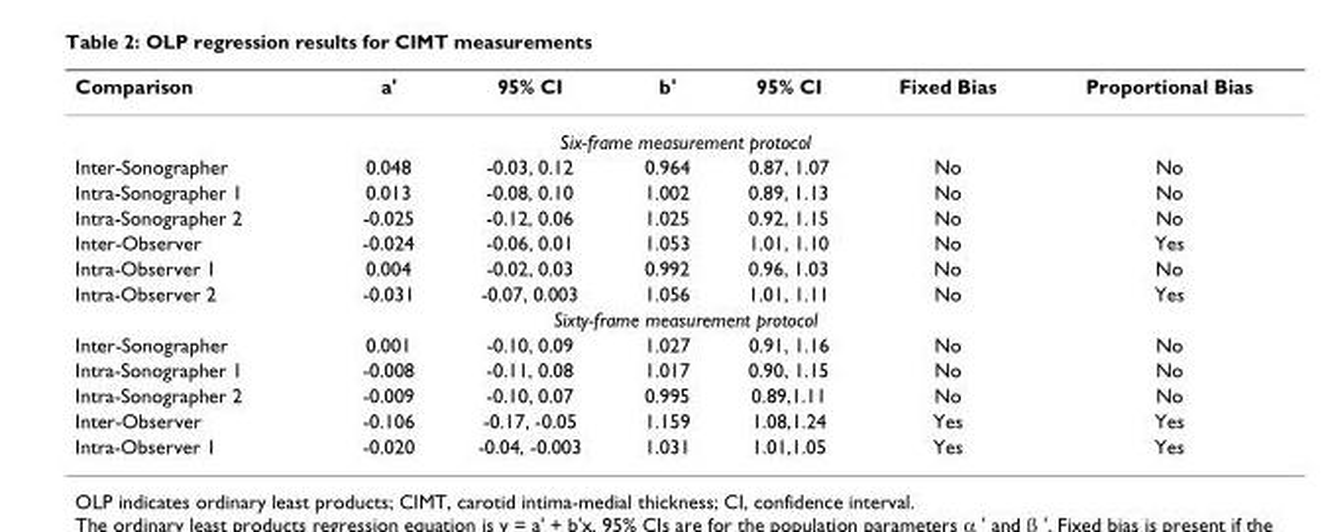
<table><thead><tr><td>Comparison</td><td>a&#x27;</td><td>95% CI</td><td>b&#x27;</td><td>95% CI</td><td>Fixed Bias</td><td>Proportional Bias</td></tr></thead><tbody><tr><td colspan="7">Six-frame measurement protocol</td></tr><tr><td>Inter-Sonographer</td><td>0.048</td><td>-0.03, 0.12</td><td>0.964</td><td>0.87, 1.07</td><td>No</td><td>No</td></tr><tr><td>Intra-Sonographer 1</td><td>0.013</td><td>-0.08, 0.10</td><td>1.002</td><td>0.89, 1.13</td><td>No</td><td>No</td></tr><tr><td>Intra-Sonographer 2</td><td>-0.025</td><td>-0.12, 0.06</td><td>1.025</td><td>0.92, 1.15</td><td>No</td><td>No</td></tr><tr><td>Inter-Observer</td><td>-0.024</td><td>-0.06, 0.01</td><td>1.053</td><td>1.01, 1.10</td><td>No</td><td>Yes</td></tr><tr><td>Intra-Observer 1</td><td>0.004</td><td>-0.02, 0.03</td><td>0.992</td><td>0.96, 1.03</td><td>No</td><td>No</td></tr><tr><td>Intra-Observer 2</td><td>-0.031</td><td>-0.07, 0.003</td><td>1.056</td><td>1.01, 1.11</td><td>No</td><td>Yes</td></tr><tr><td colspan="7">Sixty-frame measurement protocol</td></tr><tr><td>Inter-Sonographer</td><td>0.001</td><td>-0.10, 0.09</td><td>1.027</td><td>0.91, 1.16</td><td>No</td><td>No</td></tr><tr><td>Intra-Sonographer 1</td><td>-0.008</td><td>-0.11, 0.08</td><td>1.017</td><td>0.90, 1.15</td><td>No</td><td>No</td></tr><tr><td>Intra-Sonographer 2</td><td>-0.009</td><td>-0.10, 0.07</td><td>0.995</td><td>0.89,1.11</td><td>No</td><td>No</td></tr><tr><td>Inter-Observer</td><td>-0.106</td><td>-0.17, -0.05</td><td>1.159</td><td>1.08,1.24</td><td>Yes</td><td>Yes</td></tr><tr><td>Intra-Observer 1</td><td>-0.020</td><td>-0.04, -0.003</td><td>1.031</td><td>1.01,1.05</td><td>Yes</td><td>Yes</td></tr></tbody></table>